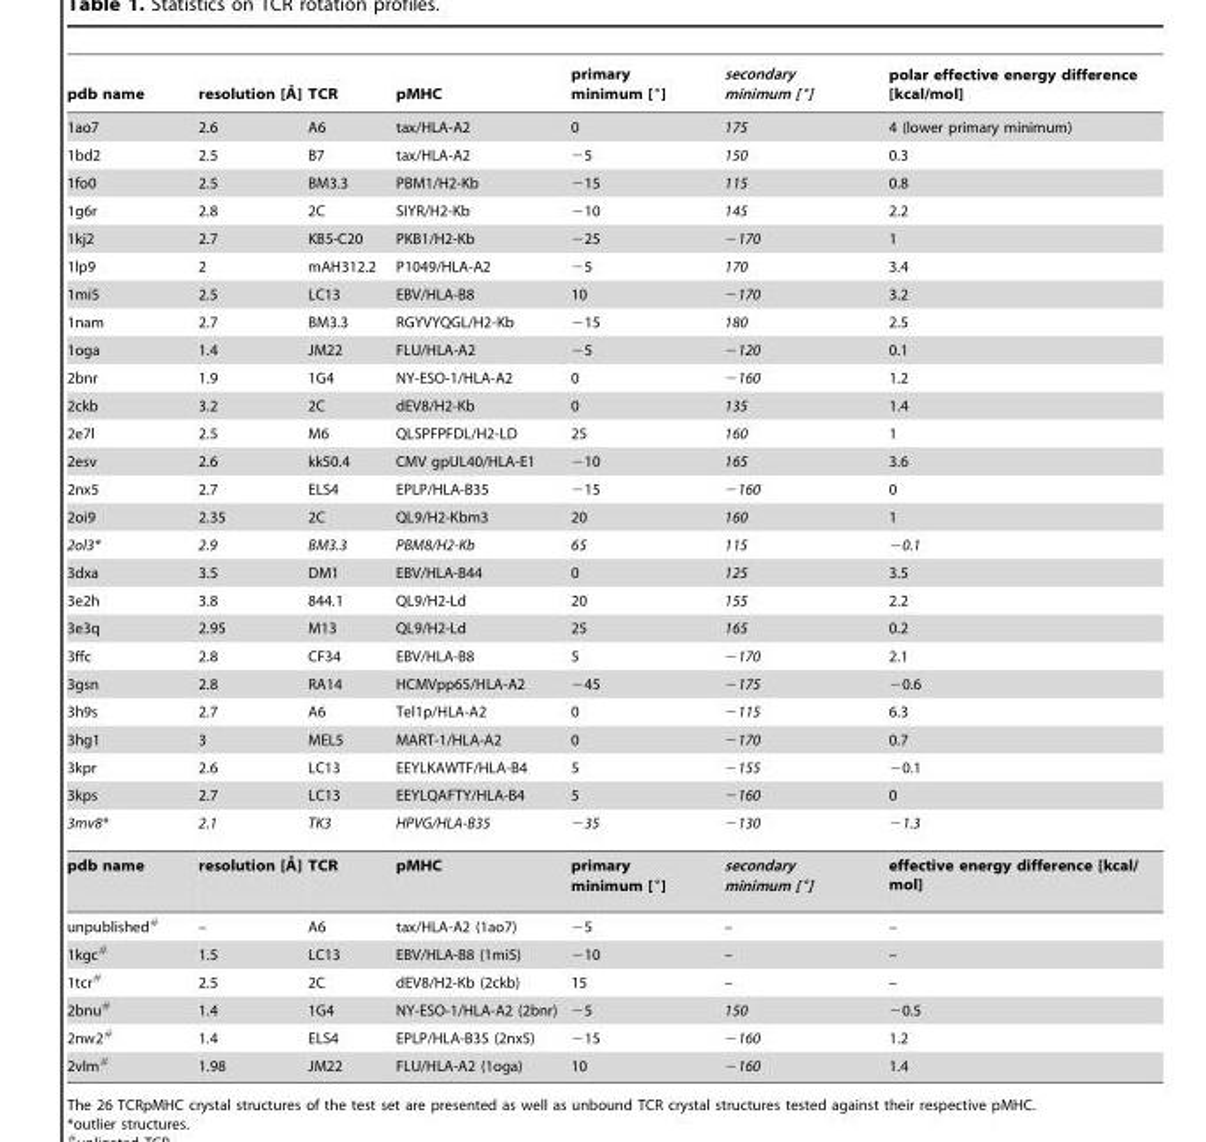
<table><thead><tr><td>pdb name</td><td>resolution [A˚ ]</td><td>TCR</td><td>pMHC</td><td>primary minimum [°]</td><td>secondary minimum [°]</td><td>polar effective energy difference [kcal/mol]</td></tr></thead><tbody><tr><td>1ao7</td><td>2.6</td><td>A6</td><td>tax/HLA-A2</td><td>0</td><td>175</td><td>4 (lower primary minimum)</td></tr><tr><td>1bd2</td><td>2.5</td><td>B7</td><td>tax/HLA-A2</td><td>−5</td><td>150</td><td>0.3</td></tr><tr><td>1fo0</td><td>2.5</td><td>BM3.3</td><td>PBM1/H2-Kb</td><td>−15</td><td>115</td><td>0.8</td></tr><tr><td>1g6r</td><td>2.8</td><td>2C</td><td>SIYR/H2-Kb</td><td>−10</td><td>145</td><td>2.2</td></tr><tr><td>1kj2</td><td>2.7</td><td>KB5-C20</td><td>PKB1/H2-Kb</td><td>−25</td><td>−170</td><td>1</td></tr><tr><td>1lp9</td><td>2</td><td>mAH312.2</td><td>P1049/HLA-A2</td><td>−5</td><td>170</td><td>3.4</td></tr><tr><td>1mi5</td><td>2.5</td><td>LC13</td><td>EBV/HLA-B8</td><td>10</td><td>−170</td><td>3.2</td></tr><tr><td>1nam</td><td>2.7</td><td>BM3.3</td><td>RGYVYQGL/H2-Kb</td><td>−15</td><td>180</td><td>2.5</td></tr><tr><td>1oga</td><td>1.4</td><td>JM22</td><td>FLU/HLA-A2</td><td>−5</td><td>−120</td><td>0.1</td></tr><tr><td>2bnr</td><td>1.9</td><td>1G4</td><td>NY-ESO-1/HLA-A2</td><td>0</td><td>−160</td><td>1.2</td></tr><tr><td>2ckb</td><td>3.2</td><td>2C</td><td>dEV8/H2-Kb</td><td>0</td><td>135</td><td>1.4</td></tr><tr><td>2e7l</td><td>2.5</td><td>M6</td><td>QLSPFPFDL/H2-LD</td><td>25</td><td>160</td><td>1</td></tr><tr><td>2esv</td><td>2.6</td><td>kk50.4</td><td>CMV gpUL40/HLA-E1</td><td>−10</td><td>165</td><td>3.6</td></tr><tr><td>2nx5</td><td>2.7</td><td>ELS4</td><td>EPLP/HLA-B35</td><td>−15</td><td>−160</td><td>0</td></tr><tr><td>2oi9</td><td>2.35</td><td>2C</td><td>QL9/H2-Kbm3</td><td>20</td><td>160</td><td>1</td></tr><tr><td>2ol3*</td><td>2.9</td><td>BM3.3</td><td>PBM8/H2-Kb</td><td>65</td><td>115</td><td>−0.1</td></tr><tr><td>3dxa</td><td>3.5</td><td>DM1</td><td>EBV/HLA-B44</td><td>0</td><td>125</td><td>3.5</td></tr><tr><td>3e2h</td><td>3.8</td><td>844.1</td><td>QL9/H2-Ld</td><td>20</td><td>155</td><td>2.2</td></tr><tr><td>3e3q</td><td>2.95</td><td>M13</td><td>QL9/H2-Ld</td><td>25</td><td>165</td><td>0.2</td></tr><tr><td>3ffc</td><td>2.8</td><td>CF34</td><td>EBV/HLA-B8</td><td>5</td><td>−170</td><td>2.1</td></tr><tr><td>3gsn</td><td>2.8</td><td>RA14</td><td>HCMVpp65/HLA-A2</td><td>−45</td><td>−175</td><td>−0.6</td></tr><tr><td>3h9s</td><td>2.7</td><td>A6</td><td>Tel1p/HLA-A2</td><td>0</td><td>−115</td><td>6.3</td></tr><tr><td>3hg1</td><td>3</td><td>MEL5</td><td>MART-1/HLA-A2</td><td>0</td><td>−170</td><td>0.7</td></tr><tr><td>3kpr</td><td>2.6</td><td>LC13</td><td>EEYLKAWTF/HLA-B4</td><td>5</td><td>−155</td><td>−0.1</td></tr><tr><td>3kps</td><td>2.7</td><td>LC13</td><td>EEYLQAFTY/HLA-B4</td><td>5</td><td>−160</td><td>0</td></tr><tr><td>3mv8*</td><td>2.1</td><td>TK3</td><td>HPVG/HLA-B35</td><td>−35</td><td>−130</td><td>−1.3</td></tr><tr><td>pdb name</td><td>resolution [A˚ ]</td><td>TCR</td><td>pMHC</td><td>primary minimum [°]</td><td>secondary minimum [°]</td><td>effective energy difference [kcal/ mol]</td></tr><tr><td>unpublished#</td><td>–</td><td>A6</td><td>tax/HLA-A2 (1ao7)</td><td>−5</td><td>–</td><td>–</td></tr><tr><td>1kgc#</td><td>1.5</td><td>LC13</td><td>EBV/HLA-B8 (1mi5)</td><td>−10</td><td>–</td><td>–</td></tr><tr><td>1tcr#</td><td>2.5</td><td>2C</td><td>dEV8/H2-Kb (2ckb)</td><td>15</td><td>–</td><td>–</td></tr><tr><td>2bnu#</td><td>1.4</td><td>1G4</td><td>NY-ESO-1/HLA-A2 (2bnr)</td><td>−5</td><td>150</td><td>−0.5</td></tr><tr><td>2nw2#</td><td>1.4</td><td>ELS4</td><td>EPLP/HLA-B35 (2nx5)</td><td>−15</td><td>−160</td><td>1.2</td></tr><tr><td>2vlm#</td><td>1.98</td><td>JM22</td><td>FLU/HLA-A2 (1oga)</td><td>10</td><td>−160</td><td>1.4</td></tr></tbody></table>